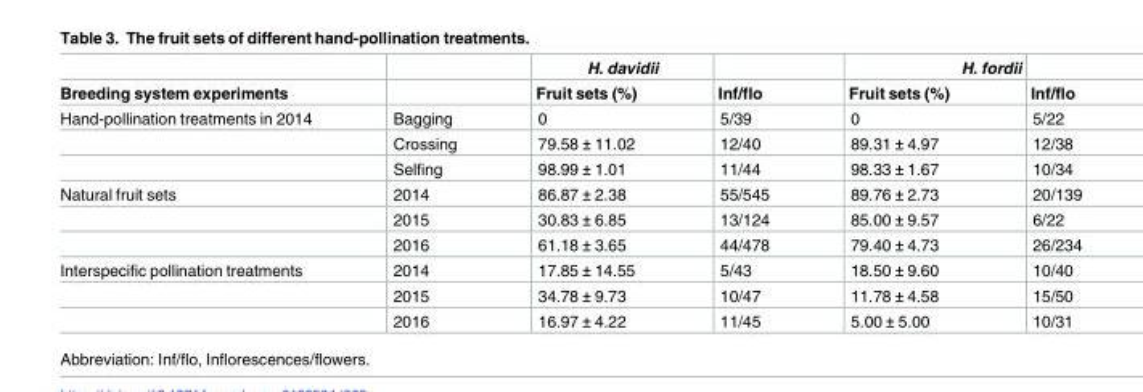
<table><thead><tr><td rowspan="2">Breeding system experiments</td><td rowspan="2"></td><td rowspan="2">H. davidii Fruit sets (%)</td><td rowspan="2">Inf/flo</td><td rowspan="2">H. fordii Fruit sets (%)</td><td rowspan="2">Inf/flo</td></tr><tr></tr></thead><tbody><tr><td rowspan="3">Hand-pollination treatments in 2014</td><td>Bagging</td><td>0</td><td>5/39</td><td>0</td><td>5/22</td></tr><tr><td>Crossing</td><td>79.58 ± 11.02</td><td>12/40</td><td>89.31 ± 4.97</td><td>12/38</td></tr><tr><td>Selfing</td><td>98.99 ± 1.01</td><td>11/44</td><td>98.33 ± 1.67</td><td>10/34</td></tr><tr><td rowspan="3">Natural fruit sets</td><td>2014</td><td>86.87 ± 2.38</td><td>55/545</td><td>89.76 ± 2.73</td><td>20/139</td></tr><tr><td>2015</td><td>30.83 ± 6.85</td><td>13/124</td><td>85.00 ± 9.57</td><td>6/22</td></tr><tr><td>2016</td><td>61.18 ± 3.65</td><td>44/478</td><td>79.40 ± 4.73</td><td>26/234</td></tr><tr><td rowspan="3">Interspecific pollination treatments</td><td>2014</td><td>17.85 ± 14.55</td><td>5/43</td><td>18.50 ± 9.60</td><td>10/40</td></tr><tr><td>2015</td><td>34.78 ± 9.73</td><td>10/47</td><td>11.78 ± 4.58</td><td>15/50</td></tr><tr><td>2016</td><td>16.97 ± 4.22</td><td>11/45</td><td>5.00 ± 5.00</td><td>10/31</td></tr></tbody></table>